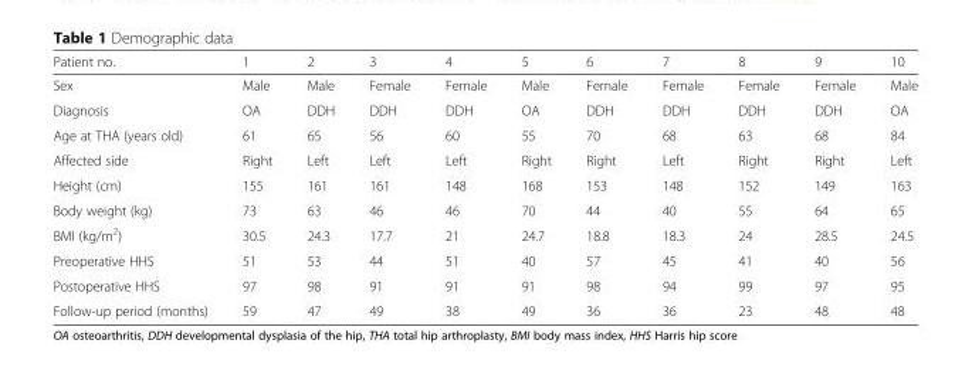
<table><thead><tr><td>Patient no.</td><td>1</td><td>2</td><td>3</td><td>4</td><td>5</td><td>6</td><td>7</td><td>8</td><td>9</td><td>10</td></tr></thead><tbody><tr><td>Sex</td><td>Male</td><td>Male</td><td>Female</td><td>Female</td><td>Male</td><td>Female</td><td>Female</td><td>Female</td><td>Female</td><td>Male</td></tr><tr><td>Diagnosis</td><td>OA</td><td>DDH</td><td>DDH</td><td>DDH</td><td>OA</td><td>DDH</td><td>DDH</td><td>DDH</td><td>DDH</td><td>OA</td></tr><tr><td>Age at THA (years old)</td><td>61</td><td>65</td><td>56</td><td>60</td><td>55</td><td>70</td><td>68</td><td>63</td><td>68</td><td>84</td></tr><tr><td>Affected side</td><td>Right</td><td>Left</td><td>Left</td><td>Left</td><td>Right</td><td>Right</td><td>Left</td><td>Right</td><td>Right</td><td>Left</td></tr><tr><td>Height (cm)</td><td>155</td><td>161</td><td>161</td><td>148</td><td>168</td><td>153</td><td>148</td><td>152</td><td>149</td><td>163</td></tr><tr><td>Body weight (kg)</td><td>73</td><td>63</td><td>46</td><td>46</td><td>70</td><td>44</td><td>40</td><td>55</td><td>64</td><td>65</td></tr><tr><td>BMI (kg/m<sup>2</sup>)</td><td>30.5</td><td>24.3</td><td>17.7</td><td>21</td><td>24.7</td><td>18.8</td><td>18.3</td><td>24</td><td>28.5</td><td>24.5</td></tr><tr><td>Preoperative HHS</td><td>51</td><td>53</td><td>44</td><td>51</td><td>40</td><td>57</td><td>45</td><td>41</td><td>40</td><td>56</td></tr><tr><td>Postoperative HHS</td><td>97</td><td>98</td><td>91</td><td>91</td><td>91</td><td>98</td><td>94</td><td>99</td><td>97</td><td>95</td></tr><tr><td>Follow-up period (months)</td><td>59</td><td>47</td><td>49</td><td>38</td><td>49</td><td>36</td><td>36</td><td>23</td><td>48</td><td>48</td></tr></tbody></table>